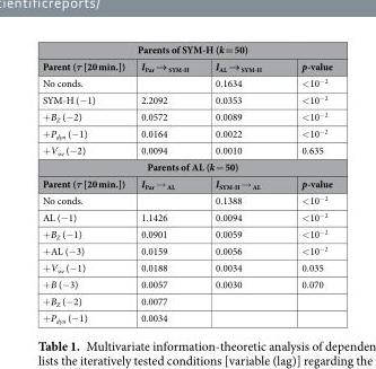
<table><thead><tr><td colspan="4">Parents of SYM-H (k = 50)</td></tr><tr><td>Parent (τ [20 min.])</td><td>I<sub>Par</sub> → <sub>SYM-H</sub></td><td>I<sub>AL</sub> → <sub>SYM-H</sub></td><td>p-value</td></tr></thead><tbody><tr><td>No conds.</td><td></td><td>0.1634</td><td>&lt;10<sup>−2</sup></td></tr><tr><td>SYM-H (−1)</td><td>2.2092</td><td>0.0353</td><td>&lt;10<sup>−2</sup></td></tr><tr><td>+B<sub>Z</sub> (−2)</td><td>0.0572</td><td>0.0089</td><td>&lt;10<sup>−2</sup></td></tr><tr><td>+P<sub>dyn</sub> (−1)</td><td>0.0164</td><td>0.0022</td><td>&lt;10<sup>−2</sup></td></tr><tr><td>+V<sub>sw</sub> (−2)</td><td>0.0094</td><td>0.0010</td><td>0.635</td></tr><tr><td colspan="4">Parents of AL (k = 50)</td></tr><tr><td>Parent (τ [20 min.])</td><td>I<sub>Par</sub> → <sub>AL</sub></td><td>I<sub>SYM-H</sub> → <sub>AL</sub></td><td>p-value</td></tr><tr><td>No conds.</td><td></td><td>0.1388</td><td>&lt;10<sup>−2</sup></td></tr><tr><td>AL (−1)</td><td>1.1426</td><td>0.0094</td><td>&lt;10<sup>−2</sup></td></tr><tr><td>+B<sub>Z</sub> (−1)</td><td>0.0901</td><td>0.0059</td><td>&lt;10<sup>−2</sup></td></tr><tr><td>+AL (−3)</td><td>0.0159</td><td>0.0056</td><td>&lt;10<sup>−2</sup></td></tr><tr><td>+V<sub>sw</sub> (−1)</td><td>0.0188</td><td>0.0034</td><td>0.035</td></tr><tr><td>+B (−3)</td><td>0.0057</td><td>0.0030</td><td>0.070</td></tr><tr><td>+B<sub>Z</sub> (−2)</td><td>0.0077</td><td></td><td></td></tr><tr><td>+P<sub>dyn</sub> (−1)</td><td>0.0034</td><td></td><td></td></tr></tbody></table>